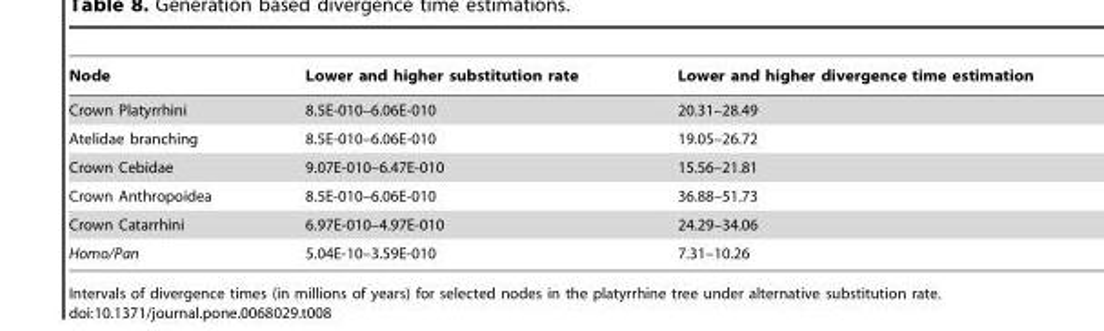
<table><thead><tr><td>Node</td><td>Lower and higher substitution rate</td><td>Lower and higher divergence time estimation</td></tr></thead><tbody><tr><td>Crown Platyrrhini</td><td>8.5E-010–6.06E-010</td><td>20.31–28.49</td></tr><tr><td>Atelidae branching</td><td>8.5E-010–6.06E-010</td><td>19.05–26.72</td></tr><tr><td>Crown Cebidae</td><td>9.07E-010–6.47E-010</td><td>15.56–21.81</td></tr><tr><td>Crown Anthropoidea</td><td>8.5E-010–6.06E-010</td><td>36.88–51.73</td></tr><tr><td>Crown Catarrhini</td><td>6.97E-010–4.97E-010</td><td>24.29–34.06</td></tr><tr><td>Homo/Pan</td><td>5.04E-10–3.59E-010</td><td>7.31–10.26</td></tr></tbody></table>